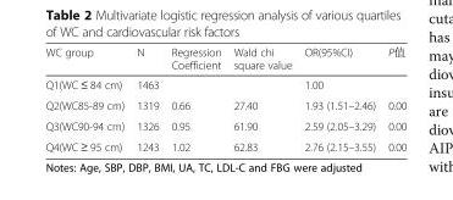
<table><thead><tr><td>WC group</td><td>N</td><td>Regression Coefficient</td><td>Wald chi square value</td><td>OR(95%CI)</td><td>P值</td></tr></thead><tbody><tr><td>Q1(WC ≤ 84 cm)</td><td>1463</td><td></td><td></td><td>1.00</td><td></td></tr><tr><td>Q2(WC85-89 cm)</td><td>1319</td><td>0.66</td><td>27.40</td><td>1.93 (1.51–2.46)</td><td>0.00</td></tr><tr><td>Q3(WC90-94 cm)</td><td>1326</td><td>0.95</td><td>61.90</td><td>2.59 (2.05–3.29)</td><td>0.00</td></tr><tr><td>Q4(WC ≥ 95 cm)</td><td>1243</td><td>1.02</td><td>62.83</td><td>2.76 (2.15–3.55)</td><td>0.00</td></tr></tbody></table>